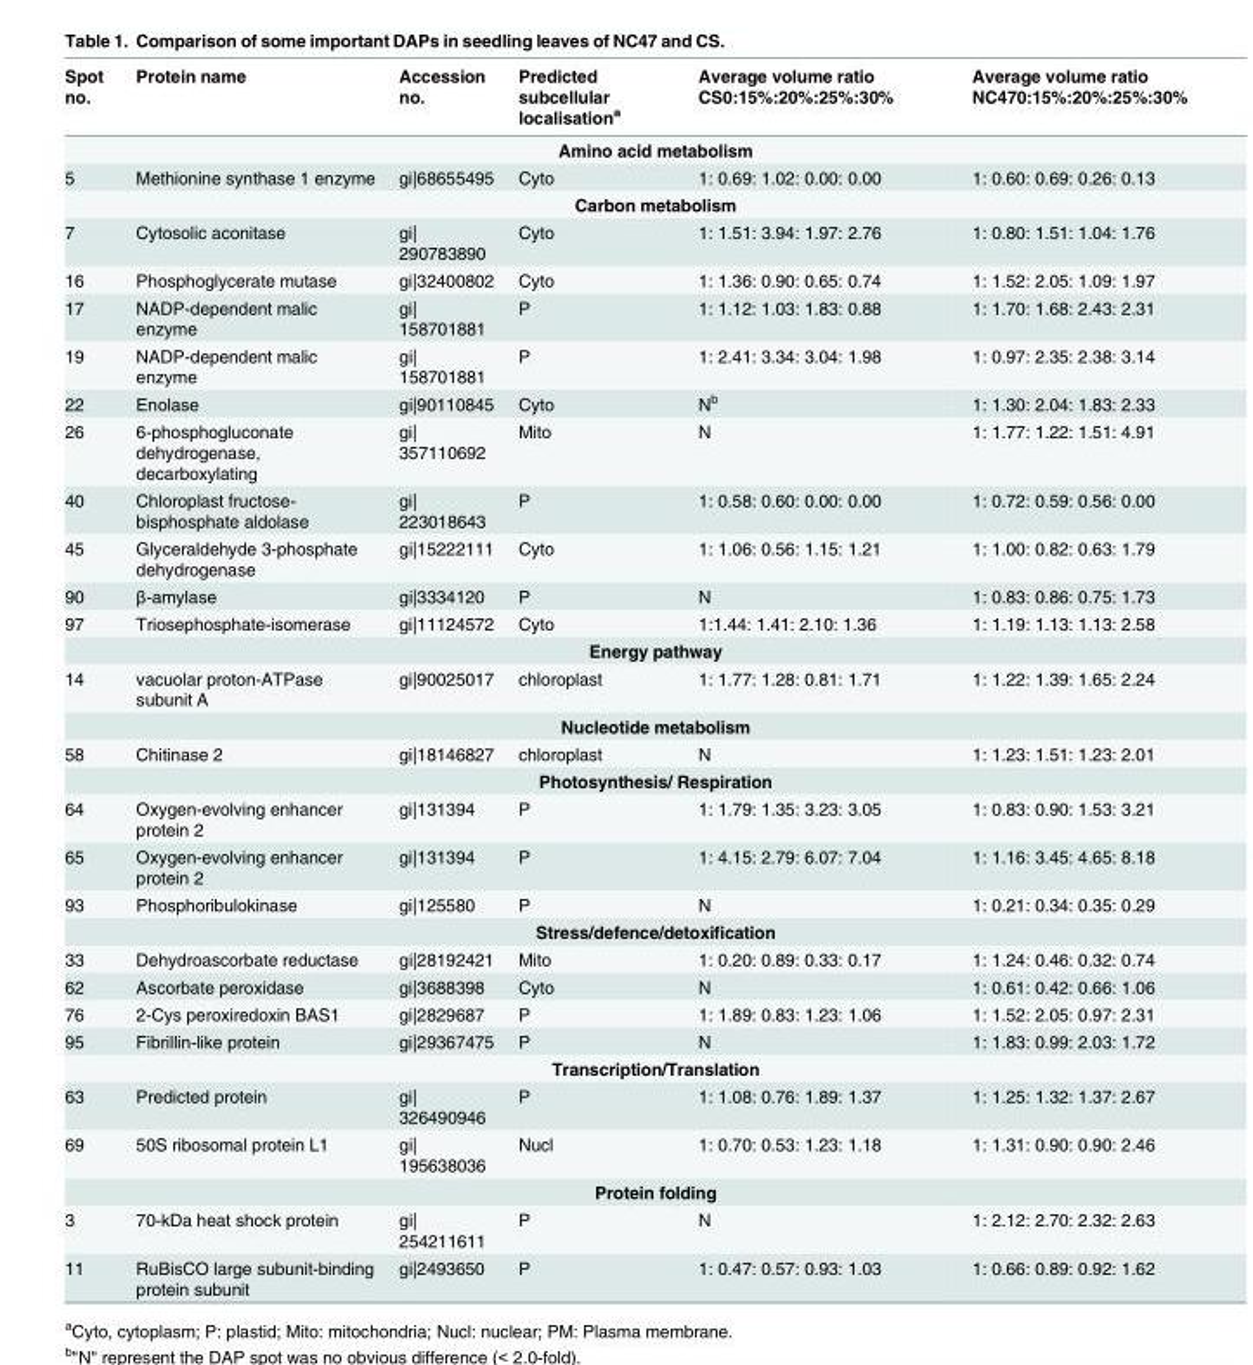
<table><thead><tr><td>Spot no.</td><td>Protein name</td><td>Accession no.</td><td>Predicted subcellular localisation<sup>a</sup></td><td>Average volume ratio CS0:15%:20%:25%:30%</td><td>Average volume ratio NC470:15%:20%:25%:30%</td></tr><tr><td colspan="6">Amino acid metabolism</td></tr><tr><td>5</td><td>Methionine synthase 1 enzyme</td><td>gi|68655495</td><td>Cyto</td><td>1: 0.69: 1.02: 0.00: 0.00</td><td>1: 0.60: 0.69: 0.26: 0.13</td></tr><tr><td colspan="6">Carbon metabolism</td></tr><tr><td>7</td><td>Cytosolic aconitase</td><td>gi| 290783890</td><td>Cyto</td><td>1: 1.51: 3.94: 1.97: 2.76</td><td>1: 0.80: 1.51: 1.04: 1.76</td></tr></thead><tbody><tr><td>16</td><td>Phosphoglycerate mutase</td><td>gi|32400802</td><td>Cyto</td><td>1: 1.36: 0.90: 0.65: 0.74</td><td>1: 1.52: 2.05: 1.09: 1.97</td></tr><tr><td>17</td><td>NADP-dependent malic enzyme</td><td>gi| 158701881</td><td>P</td><td>1: 1.12: 1.03: 1.83: 0.88</td><td>1: 1.70: 1.68: 2.43: 2.31</td></tr><tr><td>19</td><td>NADP-dependent malic enzyme</td><td>gi| 158701881</td><td>P</td><td>1: 2.41: 3.34: 3.04: 1.98</td><td>1: 0.97: 2.35: 2.38: 3.14</td></tr><tr><td>22</td><td>Enolase</td><td>gi|90110845</td><td>Cyto</td><td>N<sup>b</sup></td><td>1: 1.30: 2.04: 1.83: 2.33</td></tr><tr><td>26</td><td>6-phosphogluconate dehydrogenase, decarboxylating</td><td>gi| 357110692</td><td>Mito</td><td>N</td><td>1: 1.77: 1.22: 1.51: 4.91</td></tr><tr><td>40</td><td>Chloroplast fructose- bisphosphate aldolase</td><td>gi| 223018643</td><td>P</td><td>1: 0.58: 0.60: 0.00: 0.00</td><td>1: 0.72: 0.59: 0.56: 0.00</td></tr><tr><td>45</td><td>Glyceraldehyde 3-phosphate dehydrogenase</td><td>gi|15222111</td><td>Cyto</td><td>1: 1.06: 0.56: 1.15: 1.21</td><td>1: 1.00: 0.82: 0.63: 1.79</td></tr><tr><td>90</td><td>β-amylase</td><td>gi|3334120</td><td>P</td><td>N</td><td>1: 0.83: 0.86: 0.75: 1.73</td></tr><tr><td>97</td><td>Triosephosphate-isomerase</td><td>gi|11124572</td><td>Cyto</td><td>1:1.44: 1.41: 2.10: 1.36</td><td>1: 1.19: 1.13: 1.13: 2.58</td></tr><tr><td colspan="6">Energy pathway</td></tr><tr><td>14</td><td>vacuolar proton-ATPase subunit A</td><td>gi|90025017</td><td>chloroplast</td><td>1: 1.77: 1.28: 0.81: 1.71</td><td>1: 1.22: 1.39: 1.65: 2.24</td></tr><tr><td colspan="6">Nucleotide metabolism</td></tr><tr><td>58</td><td>Chitinase 2</td><td>gi|18146827</td><td>chloroplast</td><td>N</td><td>1: 1.23: 1.51: 1.23: 2.01</td></tr><tr><td colspan="6">Photosynthesis/ Respiration</td></tr><tr><td>64</td><td>Oxygen-evolving enhancer protein 2</td><td>gi|131394</td><td>P</td><td>1: 1.79: 1.35: 3.23: 3.05</td><td>1: 0.83: 0.90: 1.53: 3.21</td></tr><tr><td>65</td><td>Oxygen-evolving enhancer protein 2</td><td>gi|131394</td><td>P</td><td>1: 4.15: 2.79: 6.07: 7.04</td><td>1: 1.16: 3.45: 4.65: 8.18</td></tr><tr><td>93</td><td>Phosphoribulokinase</td><td>gi|125580</td><td>P</td><td>N</td><td>1: 0.21: 0.34: 0.35: 0.29</td></tr><tr><td colspan="6">Stress/defence/detoxification</td></tr><tr><td>33</td><td>Dehydroascorbate reductase</td><td>gi|28192421</td><td>Mito</td><td>1: 0.20: 0.89: 0.33: 0.17</td><td>1: 1.24: 0.46: 0.32: 0.74</td></tr><tr><td>62</td><td>Ascorbate peroxidase</td><td>gi|3688398</td><td>Cyto</td><td>N</td><td>1: 0.61: 0.42: 0.66: 1.06</td></tr><tr><td>76</td><td>2-Cys peroxiredoxin BAS1</td><td>gi|2829687</td><td>P</td><td>1: 1.89: 0.83: 1.23: 1.06</td><td>1: 1.52: 2.05: 0.97: 2.31</td></tr><tr><td>95</td><td>Fibrillin-like protein</td><td>gi|29367475</td><td>P</td><td>N</td><td>1: 1.83: 0.99: 2.03: 1.72</td></tr><tr><td colspan="6">Transcription/Translation</td></tr><tr><td>63</td><td>Predicted protein</td><td>gi| 326490946</td><td>P</td><td>1: 1.08: 0.76: 1.89: 1.37</td><td>1: 1.25: 1.32: 1.37: 2.67</td></tr><tr><td>69</td><td>50S ribosomal protein L1</td><td>gi| 195638036</td><td>Nucl</td><td>1: 0.70: 0.53: 1.23: 1.18</td><td>1: 1.31: 0.90: 0.90: 2.46</td></tr><tr><td colspan="6">Protein folding</td></tr><tr><td>3</td><td>70-kDa heat shock protein</td><td>gi| 254211611</td><td>P</td><td>N</td><td>1: 2.12: 2.70: 2.32: 2.63</td></tr><tr><td>11</td><td>RuBisCO large subunit-binding protein subunit</td><td>gi|2493650</td><td>P</td><td>1: 0.47: 0.57: 0.93: 1.03</td><td>1: 0.66: 0.89: 0.92: 1.62</td></tr></tbody></table>